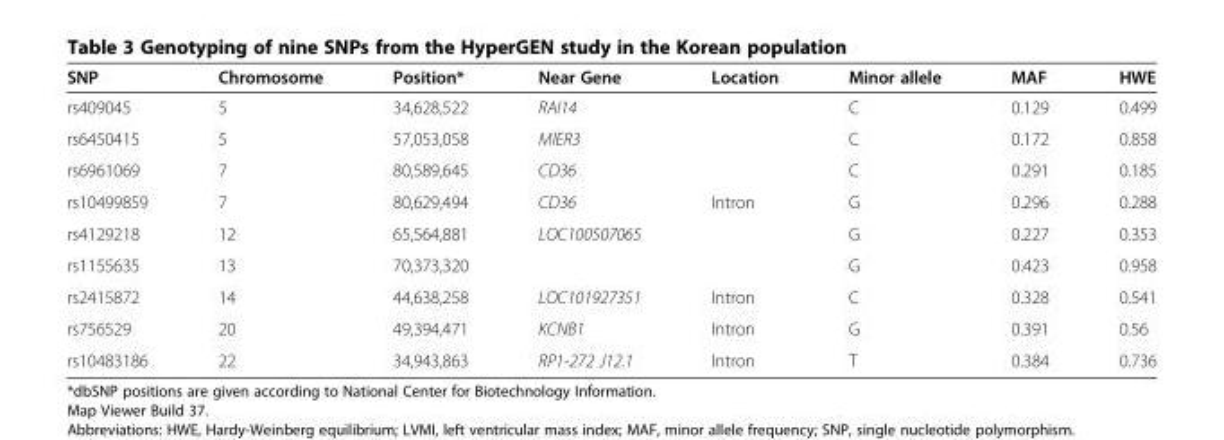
<table><thead><tr><td>SNP</td><td>Chromosome</td><td>Position*</td><td>Near Gene</td><td>Location</td><td>Minor allele</td><td>MAF</td><td>HWE</td></tr></thead><tbody><tr><td>rs409045</td><td>5</td><td>34,628,522</td><td>RAI14</td><td></td><td>C</td><td>0.129</td><td>0.499</td></tr><tr><td>rs6450415</td><td>5</td><td>57,053,058</td><td>MIER3</td><td></td><td>C</td><td>0.172</td><td>0.858</td></tr><tr><td>rs6961069</td><td>7</td><td>80,589,645</td><td>CD36</td><td></td><td>C</td><td>0.291</td><td>0.185</td></tr><tr><td>rs10499859</td><td>7</td><td>80,629,494</td><td>CD36</td><td>Intron</td><td>G</td><td>0.296</td><td>0.288</td></tr><tr><td>rs4129218</td><td>12</td><td>65,564,881</td><td>LOC100507065</td><td></td><td>G</td><td>0.227</td><td>0.353</td></tr><tr><td>rs1155635</td><td>13</td><td>70,373,320</td><td></td><td></td><td>G</td><td>0.423</td><td>0.958</td></tr><tr><td>rs2415872</td><td>14</td><td>44,638,258</td><td>LOC101927351</td><td>Intron</td><td>C</td><td>0.328</td><td>0.541</td></tr><tr><td>rs756529</td><td>20</td><td>49,394,471</td><td>KCNB1</td><td>Intron</td><td>G</td><td>0.391</td><td>0.56</td></tr><tr><td>rs10483186</td><td>22</td><td>34,943,863</td><td>RP1-272 J12.1</td><td>Intron</td><td>T</td><td>0.384</td><td>0.736</td></tr></tbody></table>